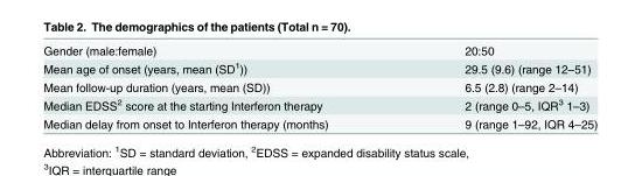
<table><tbody><tr><td>Gender (male:female)</td><td>20:50</td></tr><tr><td>Mean age of onset (years, mean (SD<sup>1</sup>))</td><td>29.5 (9.6) (range 12–51)</td></tr><tr><td>Mean follow-up duration (years, mean (SD))</td><td>6.5 (2.8) (range 2–14)</td></tr><tr><td>Median EDSS<sup>2</sup> score at the starting Interferon therapy</td><td>2 (range 0–5, IQR<sup>3</sup> 1–3)</td></tr><tr><td>Median delay from onset to Interferon therapy (months)</td><td>9 (range 1–92, IQR 4–25)</td></tr></tbody></table>